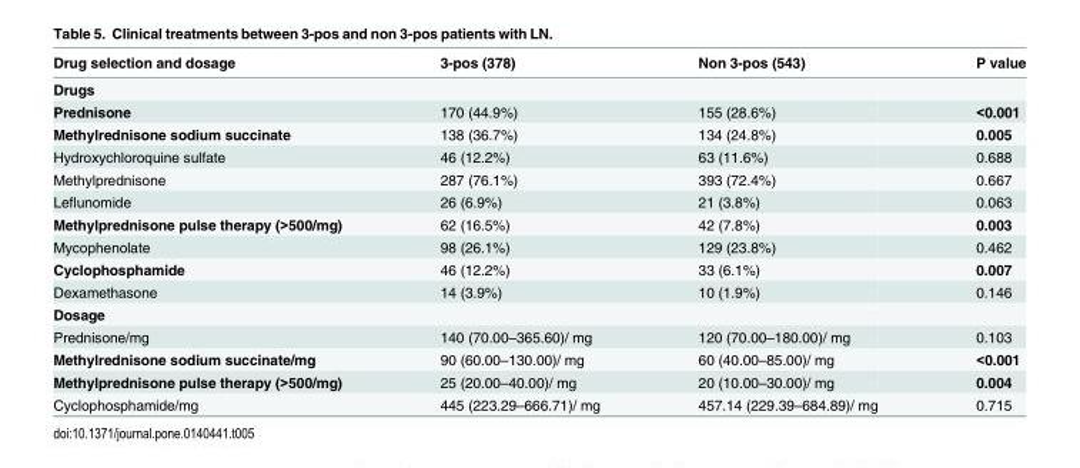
<table><thead><tr><td>Drug selection and dosage</td><td>3-pos (378)</td><td>Non 3-pos (543)</td><td>P value</td></tr></thead><tbody><tr><td colspan="4">Drugs</td></tr><tr><td>Prednisone</td><td>170 (44.9%)</td><td>155 (28.6%)</td><td>&lt;0.001</td></tr><tr><td>Methylrednisone sodium succinate</td><td>138 (36.7%)</td><td>134 (24.8%)</td><td>0.005</td></tr><tr><td>Hydroxychloroquine sulfate</td><td>46 (12.2%)</td><td>63 (11.6%)</td><td>0.688</td></tr><tr><td>Methylprednisone</td><td>287 (76.1%)</td><td>393 (72.4%)</td><td>0.667</td></tr><tr><td>Leflunomide</td><td>26 (6.9%)</td><td>21 (3.8%)</td><td>0.063</td></tr><tr><td>Methylprednisone pulse therapy (&gt;500/mg)</td><td>62 (16.5%)</td><td>42 (7.8%)</td><td>0.003</td></tr><tr><td>Mycophenolate</td><td>98 (26.1%)</td><td>129 (23.8%)</td><td>0.462</td></tr><tr><td>Cyclophosphamide</td><td>46 (12.2%)</td><td>33 (6.1%)</td><td>0.007</td></tr><tr><td>Dexamethasone</td><td>14 (3.9%)</td><td>10 (1.9%)</td><td>0.146</td></tr><tr><td colspan="4">Dosage</td></tr><tr><td>Prednisone/mg</td><td>140 (70.00–365.60)/ mg</td><td>120 (70.00–180.00)/ mg</td><td>0.103</td></tr><tr><td>Methylrednisone sodium succinate/mg</td><td>90 (60.00–130.00)/ mg</td><td>60 (40.00–85.00)/ mg</td><td>&lt;0.001</td></tr><tr><td>Methylprednisone pulse therapy (&gt;500/mg)</td><td>25 (20.00–40.00)/ mg</td><td>20 (10.00–30.00)/ mg</td><td>0.004</td></tr><tr><td>Cyclophosphamide/mg</td><td>445 (223.29–666.71)/ mg</td><td>457.14 (229.39–684.89)/ mg</td><td>0.715</td></tr></tbody></table>